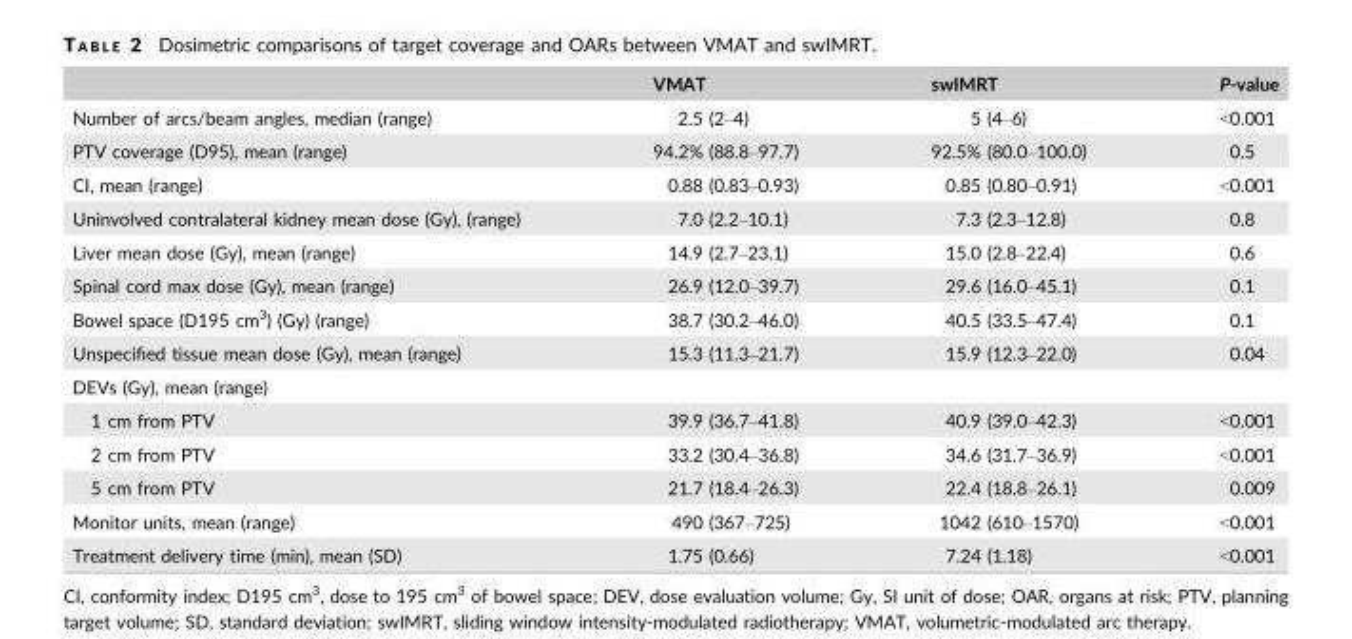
<table><thead><tr><td></td><td>VMAT</td><td>swIMRT</td><td>P-value</td></tr></thead><tbody><tr><td>Number of arcs/beam angles, median (range)</td><td>2.5 (2–4)</td><td>5 (4–6)</td><td>&lt;0.001</td></tr><tr><td>PTV coverage (D95), mean (range)</td><td>94.2% (88.8–97.7)</td><td>92.5% (80.0–100.0)</td><td>0.5</td></tr><tr><td>CI, mean (range)</td><td>0.88 (0.83–0.93)</td><td>0.85 (0.80–0.91)</td><td>&lt;0.001</td></tr><tr><td>Uninvolved contralateral kidney mean dose (Gy), (range)</td><td>7.0 (2.2–10.1)</td><td>7.3 (2.3–12.8)</td><td>0.8</td></tr><tr><td>Liver mean dose (Gy), mean (range)</td><td>14.9 (2.7–23.1)</td><td>15.0 (2.8–22.4)</td><td>0.6</td></tr><tr><td>Spinal cord max dose (Gy), mean (range)</td><td>26.9 (12.0–39.7)</td><td>29.6 (16.0–45.1)</td><td>0.1</td></tr><tr><td>Bowel space (D195 cm<sup>3</sup>) (Gy) (range)</td><td>38.7 (30.2–46.0)</td><td>40.5 (33.5–47.4)</td><td>0.1</td></tr><tr><td>Unspecified tissue mean dose (Gy), mean (range)</td><td>15.3 (11.3–21.7)</td><td>15.9 (12.3–22.0)</td><td>0.04</td></tr><tr><td colspan="4">DEVs (Gy), mean (range)</td></tr><tr><td>1 cm from PTV</td><td>39.9 (36.7–41.8)</td><td>40.9 (39.0–42.3)</td><td>&lt;0.001</td></tr><tr><td>2 cm from PTV</td><td>33.2 (30.4–36.8)</td><td>34.6 (31.7–36.9)</td><td>&lt;0.001</td></tr><tr><td>5 cm from PTV</td><td>21.7 (18.4–26.3)</td><td>22.4 (18.8–26.1)</td><td>0.009</td></tr><tr><td>Monitor units, mean (range)</td><td>490 (367–725)</td><td>1042 (610–1570)</td><td>&lt;0.001</td></tr><tr><td>Treatment delivery time (min), mean (SD)</td><td>1.75 (0.66)</td><td>7.24 (1.18)</td><td>&lt;0.001</td></tr></tbody></table>